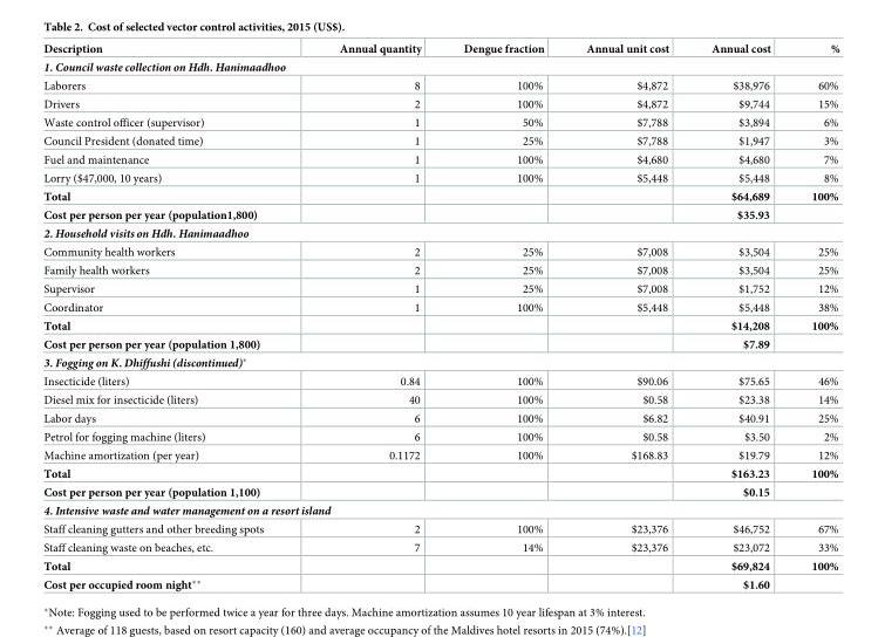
<table><thead><tr><td>Description</td><td>Annual quantity</td><td>Dengue fraction</td><td>Annual unit cost</td><td>Annual cost</td><td>%</td></tr></thead><tbody><tr><td colspan="6">1. Council waste collection on Hdh. Hanimaadhoo</td></tr><tr><td>Laborers</td><td>8</td><td>100%</td><td>$4,872</td><td>$38,976</td><td>60%</td></tr><tr><td>Drivers</td><td>2</td><td>100%</td><td>$4,872</td><td>$9,744</td><td>15%</td></tr><tr><td>Waste control officer (supervisor)</td><td>1</td><td>50%</td><td>$7,788</td><td>$3,894</td><td>6%</td></tr><tr><td>Council President (donated time)</td><td>1</td><td>25%</td><td>$7,788</td><td>$1,947</td><td>3%</td></tr><tr><td>Fuel and maintenance</td><td>1</td><td>100%</td><td>$4,680</td><td>$4,680</td><td>7%</td></tr><tr><td>Lorry ($47,000, 10 years)</td><td>1</td><td>100%</td><td>$5,448</td><td>$5,448</td><td>8%</td></tr><tr><td>Total</td><td></td><td></td><td></td><td>$64,689</td><td>100%</td></tr><tr><td>Cost per person per year (population1,800)</td><td></td><td></td><td></td><td>$35.93</td><td></td></tr><tr><td colspan="6">2. Household visits on Hdh. Hanimaadhoo</td></tr><tr><td>Community health workers</td><td>2</td><td>25%</td><td>$7,008</td><td>$3,504</td><td>25%</td></tr><tr><td>Family health workers</td><td>2</td><td>25%</td><td>$7,008</td><td>$3,504</td><td>25%</td></tr><tr><td>Supervisor</td><td>1</td><td>25%</td><td>$7,008</td><td>$1,752</td><td>12%</td></tr><tr><td>Coordinator</td><td>1</td><td>100%</td><td>$5,448</td><td>$5,448</td><td>38%</td></tr><tr><td>Total</td><td></td><td></td><td></td><td>$14,208</td><td>100%</td></tr><tr><td>Cost per person per year (population 1,800)</td><td></td><td></td><td></td><td>$7.89</td><td></td></tr><tr><td colspan="6">3. Fogging on K. Dhiffushi (discontinued)*</td></tr><tr><td>Insecticide (liters)</td><td>0.84</td><td>100%</td><td>$90.06</td><td>$75.65</td><td>46%</td></tr><tr><td>Diesel mix for insecticide (liters)</td><td>40</td><td>100%</td><td>$0.58</td><td>$23.38</td><td>14%</td></tr><tr><td>Labor days</td><td>6</td><td>100%</td><td>$6.82</td><td>$40.91</td><td>25%</td></tr><tr><td>Petrol for fogging machine (liters)</td><td>6</td><td>100%</td><td>$0.58</td><td>$3.50</td><td>2%</td></tr><tr><td>Machine amortization (per year)</td><td>0.1172</td><td>100%</td><td>$168.83</td><td>$19.79</td><td>12%</td></tr><tr><td>Total</td><td></td><td></td><td></td><td>$163.23</td><td>100%</td></tr><tr><td>Cost per person per year (population 1,100)</td><td></td><td></td><td></td><td>$0.15</td><td></td></tr><tr><td colspan="6">4. Intensive waste and water management on a resort island</td></tr><tr><td>Staff cleaning gutters and other breeding spots</td><td>2</td><td>100%</td><td>$23,376</td><td>$46,752</td><td>67%</td></tr><tr><td>Staff cleaning waste on beaches, etc.</td><td>7</td><td>14%</td><td>$23,376</td><td>$23,072</td><td>33%</td></tr><tr><td>Total</td><td></td><td></td><td></td><td>$69,824</td><td>100%</td></tr><tr><td>Cost per occupied room night**</td><td></td><td></td><td></td><td>$1.60</td><td></td></tr></tbody></table>